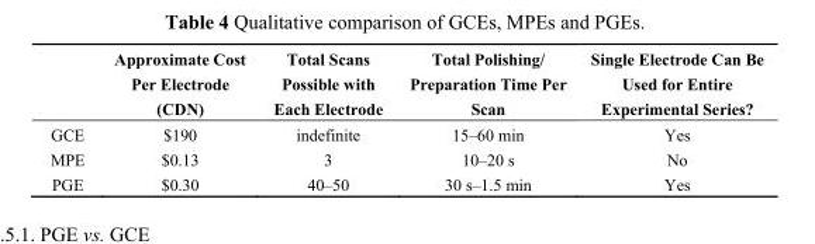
<table><thead><tr><td></td><td>Approximate Cost Per Electrode (CDN)</td><td>Total Scans Possible with Each Electrode</td><td>Total Polishing/ Preparation Time Per Scan</td><td>Single Electrode Can Be Used for Entire Experimental Series?</td></tr></thead><tbody><tr><td>GCE</td><td>$190</td><td>indefinite</td><td>15–60 min</td><td>Yes</td></tr><tr><td>MPE</td><td>$0.13</td><td>3</td><td>10–20 s</td><td>No</td></tr><tr><td>PGE</td><td>$0.30</td><td>40–50</td><td>30 s–1.5 min</td><td>Yes</td></tr></tbody></table>